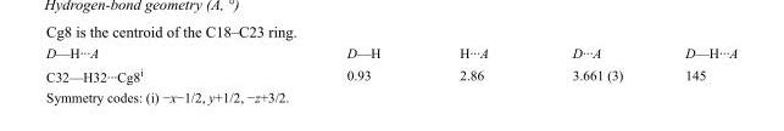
<table><tbody><tr><td>D—H···A</td><td>D—H</td><td>H···A</td><td>D···A</td><td>D—H···A</td></tr><tr><td>C32—H32···Cg8<sup>i</sup></td><td>0.93</td><td>2.86</td><td>3.661 (3)</td><td>145</td></tr></tbody></table>